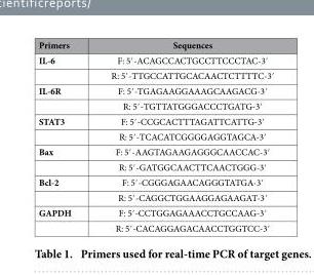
<table><thead><tr><td>Primers</td><td>Sequences</td></tr></thead><tbody><tr><td rowspan="2">IL-6</td><td>F: 5′ -ACAGCCACTGCCTTCCCTAC-3′</td></tr><tr><td>R: 5′ -TTGCCATTGCACAACTCTTTTC-3′</td></tr><tr><td rowspan="2">IL-6R</td><td>F: 5′ -TGAGAAGGAAAGCAAGACG-3′</td></tr><tr><td>R: 5′ -TGTTATGGGACCCTGATG-3′</td></tr><tr><td rowspan="2">STAT3</td><td>F: 5′ -CCGCACTTTAGATTCATTG-3′</td></tr><tr><td>R: 5′ -TCACATCGGGGAGGTAGCA-3′</td></tr><tr><td rowspan="2">Bax</td><td>F: 5′ -AAGTAGAAGAGGGCAACCAC-3′</td></tr><tr><td>R: 5′ -GATGGCAACTTCAACTGGG-3′</td></tr><tr><td rowspan="2">Bcl-2</td><td>F: 5′ -CGGGAGAACAGGGTATGA-3′</td></tr><tr><td>R: 5′ -CAGGCTGGAAGGAGAAGAT-3′</td></tr><tr><td rowspan="2">GAPDH</td><td>F: 5′ -CCTGGAGAAACCTGCCAAG-3′</td></tr><tr><td>R: 5′ -CACAGGAGACAACCTGGTCC-3′</td></tr></tbody></table>